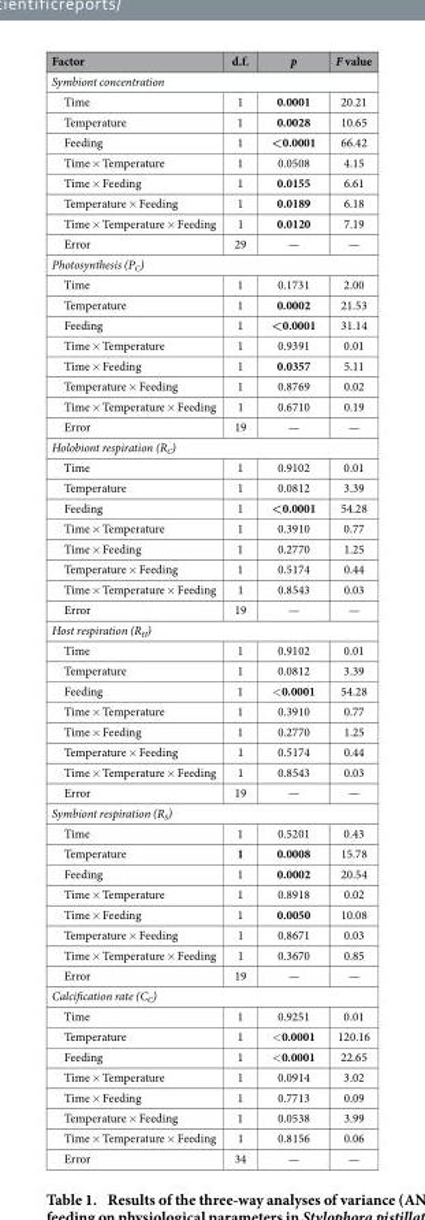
<table><thead><tr><td>Factor</td><td>d.f.</td><td>p</td><td>F value</td></tr></thead><tbody><tr><td colspan="4">Symbiont concentration</td></tr><tr><td>Time</td><td>1</td><td>0.0001</td><td>20.21</td></tr><tr><td>Temperature</td><td>1</td><td>0.0028</td><td>10.65</td></tr><tr><td>Feeding</td><td>1</td><td>&lt;0.0001</td><td>66.42</td></tr><tr><td>Time × Temperature</td><td>1</td><td>0.0508</td><td>4.15</td></tr><tr><td>Time × Feeding</td><td>1</td><td>0.0155</td><td>6.61</td></tr><tr><td>Temperature × Feeding</td><td>1</td><td>0.0189</td><td>6.18</td></tr><tr><td>Time × Temperature × Feeding</td><td>1</td><td>0.0120</td><td>7.19</td></tr><tr><td>Error</td><td>29</td><td>—</td><td>—</td></tr><tr><td colspan="4">Photosynthesis (P<sub>C</sub>)</td></tr><tr><td>Time</td><td>1</td><td>0.1731</td><td>2.00</td></tr><tr><td>Temperature</td><td>1</td><td>0.0002</td><td>21.53</td></tr><tr><td>Feeding</td><td>1</td><td>&lt;0.0001</td><td>31.14</td></tr><tr><td>Time × Temperature</td><td>1</td><td>0.9391</td><td>0.01</td></tr><tr><td>Time × Feeding</td><td>1</td><td>0.0357</td><td>5.11</td></tr><tr><td>Temperature × Feeding</td><td>1</td><td>0.8769</td><td>0.02</td></tr><tr><td>Time × Temperature × Feeding</td><td>1</td><td>0.6710</td><td>0.19</td></tr><tr><td>Error</td><td>19</td><td>—</td><td>—</td></tr><tr><td colspan="4">Holobiont respiration (R<sub>C</sub>)</td></tr><tr><td>Time</td><td>1</td><td>0.9102</td><td>0.01</td></tr><tr><td>Temperature</td><td>1</td><td>0.0812</td><td>3.39</td></tr><tr><td>Feeding</td><td>1</td><td>&lt;0.0001</td><td>54.28</td></tr><tr><td>Time × Temperature</td><td>1</td><td>0.3910</td><td>0.77</td></tr><tr><td>Time × Feeding</td><td>1</td><td>0.2770</td><td>1.25</td></tr><tr><td>Temperature × Feeding</td><td>1</td><td>0.5174</td><td>0.44</td></tr><tr><td>Time × Temperature × Feeding</td><td>1</td><td>0.8543</td><td>0.03</td></tr><tr><td>Error</td><td>19</td><td>—</td><td>—</td></tr><tr><td colspan="4">Host respiration (R<sub>H</sub>)</td></tr><tr><td>Time</td><td>1</td><td>0.9102</td><td>0.01</td></tr><tr><td>Temperature</td><td>1</td><td>0.0812</td><td>3.39</td></tr><tr><td>Feeding</td><td>1</td><td>&lt; 0.0001</td><td>54.28</td></tr><tr><td>Time × Temperature</td><td>1</td><td>0.3910</td><td>0.77</td></tr><tr><td>Time × Feeding</td><td>1</td><td>0.2770</td><td>1.25</td></tr><tr><td>Temperature × Feeding</td><td>1</td><td>0.5174</td><td>0.44</td></tr><tr><td>Time × Temperature × Feeding</td><td>1</td><td>0.8543</td><td>0.03</td></tr><tr><td>Error</td><td>19</td><td>—</td><td>—</td></tr><tr><td colspan="4">Symbiont respiration (R<sub>S</sub>)</td></tr><tr><td>Time</td><td>1</td><td>0.5201</td><td>0.43</td></tr><tr><td>Temperature</td><td>1</td><td>0.0008</td><td>15.78</td></tr><tr><td>Feeding</td><td>1</td><td>0.0002</td><td>20.54</td></tr><tr><td>Time × Temperature</td><td>1</td><td>0.8918</td><td>0.02</td></tr><tr><td>Time × Feeding</td><td>1</td><td>0.0050</td><td>10.08</td></tr><tr><td>Temperature × Feeding</td><td>1</td><td>0.8671</td><td>0.03</td></tr><tr><td>Time × Temperature × Feeding</td><td>1</td><td>0.3670</td><td>0.85</td></tr><tr><td>Error</td><td>19</td><td>—</td><td>—</td></tr><tr><td colspan="4">Calcification rate (C<sub>C</sub>)</td></tr><tr><td>Time</td><td>1</td><td>0.9251</td><td>0.01</td></tr><tr><td>Temperature</td><td>1</td><td>&lt; 0.0001</td><td>120.16</td></tr><tr><td>Feeding</td><td>1</td><td>&lt; 0.0001</td><td>22.65</td></tr><tr><td>Time × Temperature</td><td>1</td><td>0.0914</td><td>3.02</td></tr><tr><td>Time × Feeding</td><td>1</td><td>0.7713</td><td>0.09</td></tr><tr><td>Temperature × Feeding</td><td>1</td><td>0.0538</td><td>3.99</td></tr><tr><td>Time × Temperature × Feeding</td><td>1</td><td>0.8156</td><td>0.06</td></tr><tr><td>Error</td><td>34</td><td>—</td><td>—</td></tr></tbody></table>